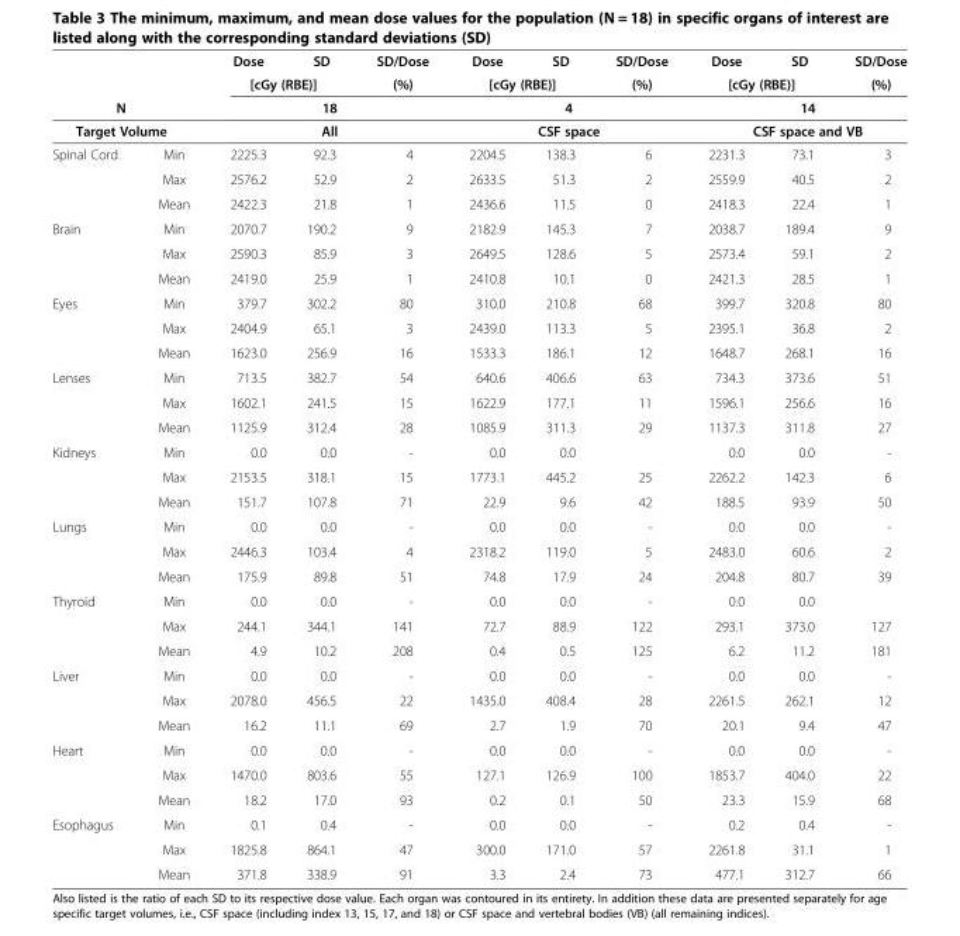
<table><thead><tr><td rowspan="2"></td><td rowspan="2"></td><td>Dose</td><td>SD</td><td rowspan="4">SD/Dose (%)</td><td>Dose</td><td>SD</td><td rowspan="2">SD/Dose (%)</td><td>Dose</td><td>SD</td><td rowspan="2">SD/Dose (%)</td></tr><tr><td colspan="2">[cGy (RBE)]</td><td colspan="2">[cGy (RBE)]</td><td colspan="2">[cGy (RBE)]</td></tr><tr><td rowspan="2" colspan="2">N Target Volume</td><td rowspan="2"></td><td rowspan="2">18 All</td><td rowspan="2" colspan="3">4 CSF space</td><td rowspan="2" colspan="3">14 CSF space and VB</td></tr><tr></tr></thead><tbody><tr><td rowspan="3">Spinal Cord</td><td>Min</td><td>2225.3</td><td>92.3</td><td>4</td><td>2204.5</td><td>138.3</td><td>6</td><td>2231.3</td><td>73.1</td><td>3</td></tr><tr><td>Max</td><td>2576.2</td><td>52.9</td><td>2</td><td>2633.5</td><td>51.3</td><td>2</td><td>2559.9</td><td>40.5</td><td>2</td></tr><tr><td>Mean</td><td>2422.3</td><td>21.8</td><td>1</td><td>2436.6</td><td>11.5</td><td>0</td><td>2418.3</td><td>22.4</td><td>1</td></tr><tr><td rowspan="3">Brain</td><td>Min</td><td>2070.7</td><td>190.2</td><td>9</td><td>2182.9</td><td>145.3</td><td>7</td><td>2038.7</td><td>189.4</td><td>9</td></tr><tr><td>Max</td><td>2590.3</td><td>85.9</td><td>3</td><td>2649.5</td><td>128.6</td><td>5</td><td>2573.4</td><td>59.1</td><td>2</td></tr><tr><td>Mean</td><td>2419.0</td><td>25.9</td><td>1</td><td>2410.8</td><td>10.1</td><td>0</td><td>2421.3</td><td>28.5</td><td>1</td></tr><tr><td rowspan="3">Eyes</td><td>Min</td><td>379.7</td><td>302.2</td><td>80</td><td>310.0</td><td>210.8</td><td>68</td><td>399.7</td><td>320.8</td><td>80</td></tr><tr><td>Max</td><td>2404.9</td><td>65.1</td><td>3</td><td>2439.0</td><td>113.3</td><td>5</td><td>2395.1</td><td>36.8</td><td>2</td></tr><tr><td>Mean</td><td>1623.0</td><td>256.9</td><td>16</td><td>1533.3</td><td>186.1</td><td>12</td><td>1648.7</td><td>268.1</td><td>16</td></tr><tr><td rowspan="3">Lenses</td><td>Min</td><td>713.5</td><td>382.7</td><td>54</td><td>640.6</td><td>406.6</td><td>63</td><td>734.3</td><td>373.6</td><td>51</td></tr><tr><td>Max</td><td>1602.1</td><td>241.5</td><td>15</td><td>1622.9</td><td>177.1</td><td>11</td><td>1596.1</td><td>256.6</td><td>16</td></tr><tr><td>Mean</td><td>1125.9</td><td>312.4</td><td>28</td><td>1085.9</td><td>311.3</td><td>29</td><td>1137.3</td><td>311.8</td><td>27</td></tr><tr><td rowspan="3">Kidneys</td><td>Min</td><td>0.0</td><td>0.0</td><td>-</td><td>0.0</td><td>0.0</td><td></td><td>0.0</td><td>0.0</td><td>-</td></tr><tr><td>Max</td><td>2153.5</td><td>318.1</td><td>15</td><td>1773.1</td><td>445.2</td><td>25</td><td>2262.2</td><td>142.3</td><td>6</td></tr><tr><td>Mean</td><td>151.7</td><td>107.8</td><td>71</td><td>22.9</td><td>9.6</td><td>42</td><td>188.5</td><td>93.9</td><td>50</td></tr><tr><td rowspan="3">Lungs</td><td>Min</td><td>0.0</td><td>0.0</td><td>-</td><td>0.0</td><td>0.0</td><td>-</td><td>0.0</td><td>0.0</td><td>-</td></tr><tr><td>Max</td><td>2446.3</td><td>103.4</td><td>4</td><td>2318.2</td><td>119.0</td><td>5</td><td>2483.0</td><td>60.6</td><td>2</td></tr><tr><td>Mean</td><td>175.9</td><td>89.8</td><td>51</td><td>74.8</td><td>17.9</td><td>24</td><td>204.8</td><td>80.7</td><td>39</td></tr><tr><td rowspan="3">Thyroid</td><td>Min</td><td>0.0</td><td>0.0</td><td>-</td><td>0.0</td><td>0.0</td><td>-</td><td>0.0</td><td>0.0</td><td></td></tr><tr><td>Max</td><td>244.1</td><td>344.1</td><td>141</td><td>72.7</td><td>88.9</td><td>122</td><td>293.1</td><td>373.0</td><td>127</td></tr><tr><td>Mean</td><td>4.9</td><td>10.2</td><td>208</td><td>0.4</td><td>0.5</td><td>125</td><td>6.2</td><td>11.2</td><td>181</td></tr><tr><td rowspan="3">Liver</td><td>Min</td><td>0.0</td><td>0.0</td><td>-</td><td>0.0</td><td>0.0</td><td>-</td><td>0.0</td><td>0.0</td><td>-</td></tr><tr><td>Max</td><td>2078.0</td><td>456.5</td><td>22</td><td>1435.0</td><td>408.4</td><td>28</td><td>2261.5</td><td>262.1</td><td>12</td></tr><tr><td>Mean</td><td>16.2</td><td>11.1</td><td>69</td><td>2.7</td><td>1.9</td><td>70</td><td>20.1</td><td>9.4</td><td>47</td></tr><tr><td rowspan="3">Heart</td><td>Min</td><td>0.0</td><td>0.0</td><td>-</td><td>0.0</td><td>0.0</td><td>-</td><td>0.0</td><td>0.0</td><td>-</td></tr><tr><td>Max</td><td>1470.0</td><td>803.6</td><td>55</td><td>127.1</td><td>126.9</td><td>100</td><td>1853.7</td><td>404.0</td><td>22</td></tr><tr><td>Mean</td><td>18.2</td><td>17.0</td><td>93</td><td>0.2</td><td>0.1</td><td>50</td><td>23.3</td><td>15.9</td><td>68</td></tr><tr><td rowspan="3">Esophagus</td><td>Min</td><td>0.1</td><td>0.4</td><td>-</td><td>0.0</td><td>0.0</td><td>-</td><td>0.2</td><td>0.4</td><td>-</td></tr><tr><td>Max</td><td>1825.8</td><td>864.1</td><td>47</td><td>300.0</td><td>171.0</td><td>57</td><td>2261.8</td><td>31.1</td><td>1</td></tr><tr><td>Mean</td><td>371.8</td><td>338.9</td><td>91</td><td>3.3</td><td>2.4</td><td>73</td><td>477.1</td><td>312.7</td><td>66</td></tr></tbody></table>